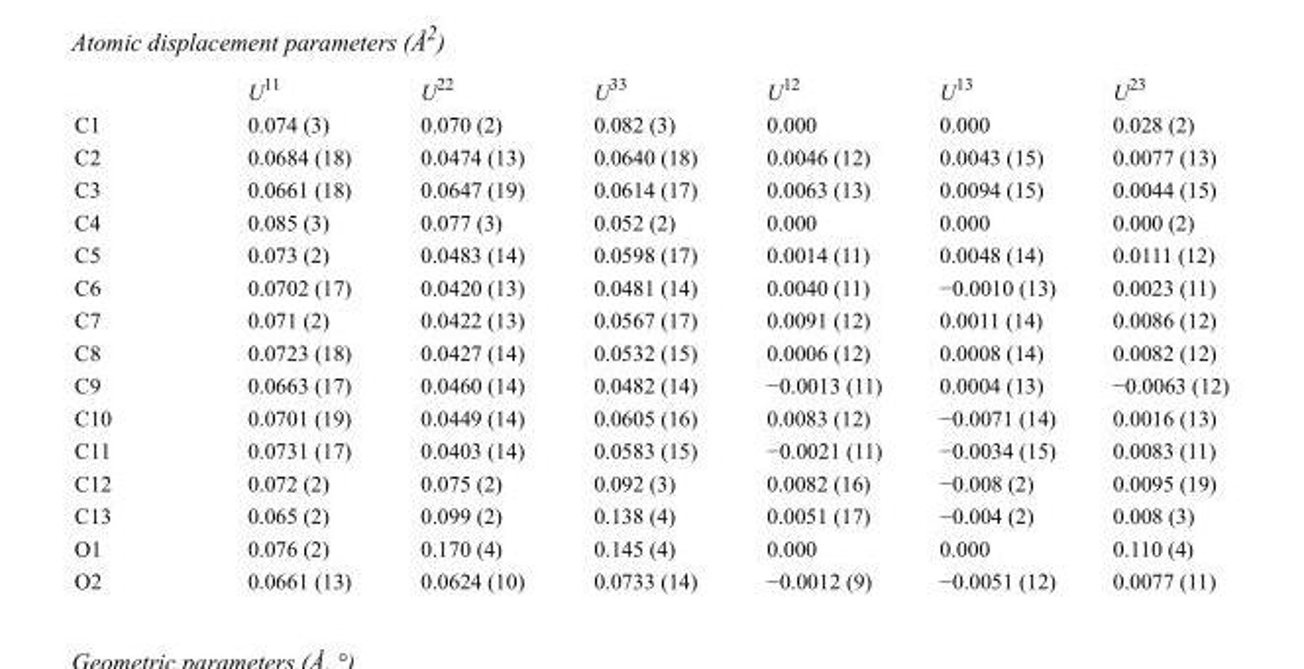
<table><thead><tr><td></td><td>U<sup>11</sup></td><td>U<sup>22</sup></td><td>U<sup>33</sup></td><td>U<sup>12</sup></td><td>U<sup>13</sup></td><td>U<sup>23</sup></td></tr></thead><tbody><tr><td>C1</td><td>0.074 (3)</td><td>0.070 (2)</td><td>0.082 (3)</td><td>0.000</td><td>0.000</td><td>0.028 (2)</td></tr><tr><td>C2</td><td>0.0684 (18)</td><td>0.0474 (13)</td><td>0.0640 (18)</td><td>0.0046 (12)</td><td>0.0043 (15)</td><td>0.0077 (13)</td></tr><tr><td>C3</td><td>0.0661 (18)</td><td>0.0647 (19)</td><td>0.0614 (17)</td><td>0.0063 (13)</td><td>0.0094 (15)</td><td>0.0044 (15)</td></tr><tr><td>C4</td><td>0.085 (3)</td><td>0.077 (3)</td><td>0.052 (2)</td><td>0.000</td><td>0.000</td><td>0.000 (2)</td></tr><tr><td>C5</td><td>0.073 (2)</td><td>0.0483 (14)</td><td>0.0598 (17)</td><td>0.0014 (11)</td><td>0.0048 (14)</td><td>0.0111 (12)</td></tr><tr><td>C6</td><td>0.0702 (17)</td><td>0.0420 (13)</td><td>0.0481 (14)</td><td>0.0040 (11)</td><td>−0.0010 (13)</td><td>0.0023 (11)</td></tr><tr><td>C7</td><td>0.071 (2)</td><td>0.0422 (13)</td><td>0.0567 (17)</td><td>0.0091 (12)</td><td>0.0011 (14)</td><td>0.0086 (12)</td></tr><tr><td>C8</td><td>0.0723 (18)</td><td>0.0427 (14)</td><td>0.0532 (15)</td><td>0.0006 (12)</td><td>0.0008 (14)</td><td>0.0082 (12)</td></tr><tr><td>C9</td><td>0.0663 (17)</td><td>0.0460 (14)</td><td>0.0482 (14)</td><td>−0.0013 (11)</td><td>0.0004 (13)</td><td>−0.0063 (12)</td></tr><tr><td>C10</td><td>0.0701 (19)</td><td>0.0449 (14)</td><td>0.0605 (16)</td><td>0.0083 (12)</td><td>−0.0071 (14)</td><td>0.0016 (13)</td></tr><tr><td>C11</td><td>0.0731 (17)</td><td>0.0403 (14)</td><td>0.0583 (15)</td><td>−0.0021 (11)</td><td>−0.0034 (15)</td><td>0.0083 (11)</td></tr><tr><td>C12</td><td>0.072 (2)</td><td>0.075 (2)</td><td>0.092 (3)</td><td>0.0082 (16)</td><td>−0.008 (2)</td><td>0.0095 (19)</td></tr><tr><td>C13</td><td>0.065 (2)</td><td>0.099 (2)</td><td>0.138 (4)</td><td>0.0051 (17)</td><td>−0.004 (2)</td><td>0.008 (3)</td></tr><tr><td>O1</td><td>0.076 (2)</td><td>0.170 (4)</td><td>0.145 (4)</td><td>0.000</td><td>0.000</td><td>0.110 (4)</td></tr><tr><td>O2</td><td>0.0661 (13)</td><td>0.0624 (10)</td><td>0.0733 (14)</td><td>−0.0012 (9)</td><td>−0.0051 (12)</td><td>0.0077 (11)</td></tr></tbody></table>